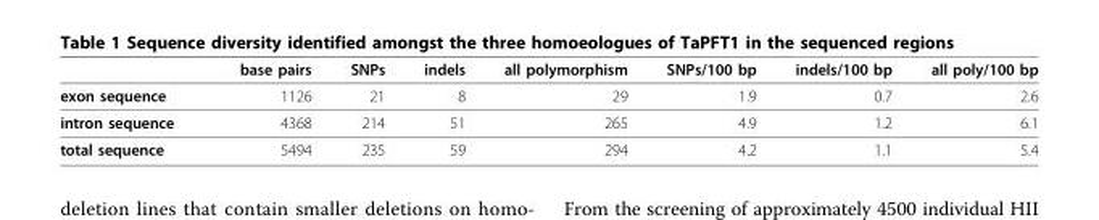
<table><thead><tr><td></td><td>base pairs</td><td>SNPs</td><td>indels</td><td>all polymorphism</td><td>SNPs/100 bp</td><td>indels/100 bp</td><td>all poly/100 bp</td></tr></thead><tbody><tr><td>exon sequence</td><td>1126</td><td>21</td><td>8</td><td>29</td><td>1.9</td><td>0.7</td><td>2.6</td></tr><tr><td>intron sequence</td><td>4368</td><td>214</td><td>51</td><td>265</td><td>4.9</td><td>1.2</td><td>6.1</td></tr><tr><td>total sequence</td><td>5494</td><td>235</td><td>59</td><td>294</td><td>4.2</td><td>1.1</td><td>5.4</td></tr></tbody></table>